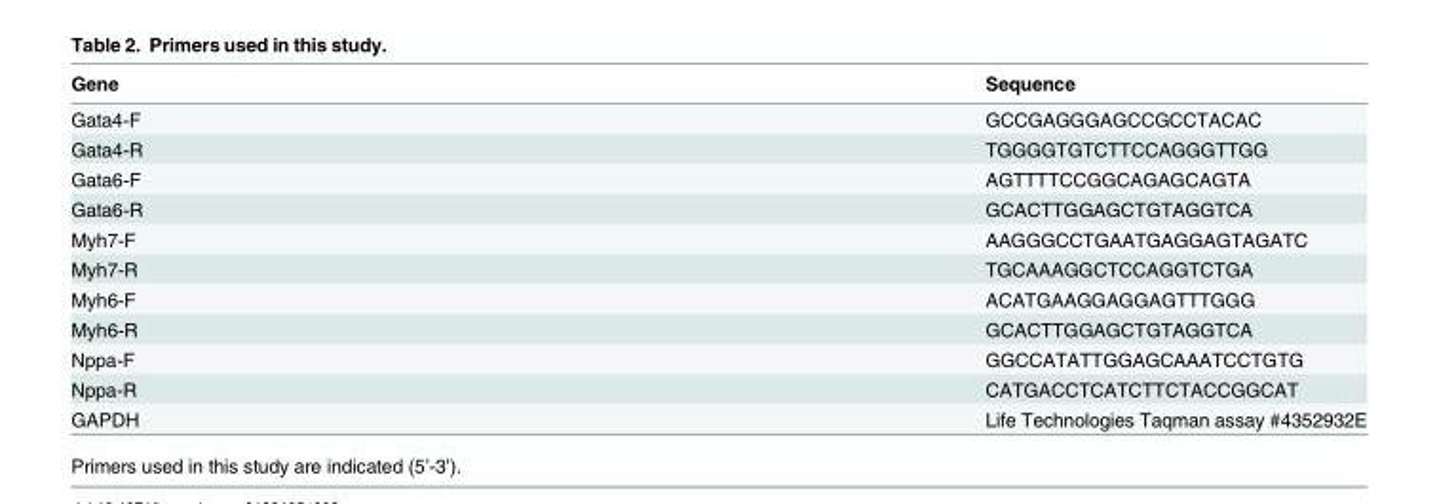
<table><thead><tr><td>Gene</td><td>Sequence</td></tr></thead><tbody><tr><td>Gata4-F</td><td>GCCGAGGGAGCCGCCTACAC</td></tr><tr><td>Gata4-R</td><td>TGGGGTGTCTTCCAGGGTTGG</td></tr><tr><td>Gata6-F</td><td>AGTTTTCCGGCAGAGCAGTA</td></tr><tr><td>Gata6-R</td><td>GCACTTGGAGCTGTAGGTCA</td></tr><tr><td>Myh7-F</td><td>AAGGGCCTGAATGAGGAGTAGATC</td></tr><tr><td>Myh7-R</td><td>TGCAAAGGCTCCAGGTCTGA</td></tr><tr><td>Myh6-F</td><td>ACATGAAGGAGGAGTTTGGG</td></tr><tr><td>Myh6-R</td><td>GCACTTGGAGCTGTAGGTCA</td></tr><tr><td>Nppa-F</td><td>GGCCATATTGGAGCAAATCCTGTG</td></tr><tr><td>Nppa-R</td><td>CATGACCTCATCTTCTACCGGCAT</td></tr><tr><td>GAPDH</td><td>Life Technologies Taqman assay #4352932E</td></tr></tbody></table>